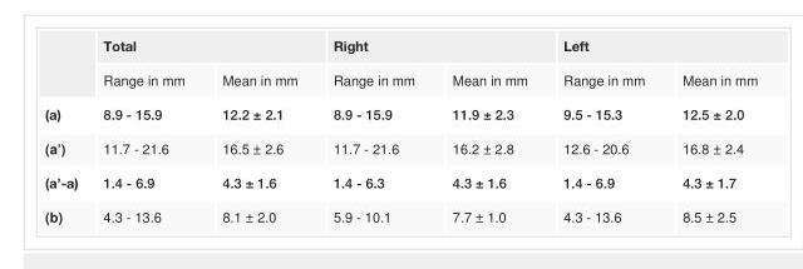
<table><thead><tr><td rowspan="2"></td><td colspan="2">Total</td><td colspan="2">Right</td><td colspan="2">Left</td></tr><tr><td>Range in mm</td><td>Mean in mm</td><td>Range in mm</td><td>Mean in mm</td><td>Range in mm</td><td>Mean in mm</td></tr></thead><tbody><tr><td>(a)</td><td>8.9 - 15.9</td><td>12.2 ± 2.1</td><td>8.9 - 15.9</td><td>11.9 ± 2.3</td><td>9.5 - 15.3</td><td>12.5 ± 2.0</td></tr><tr><td>(a’)</td><td>11.7 - 21.6</td><td>16.5 ± 2.6</td><td>11.7 - 21.6</td><td>16.2 ± 2.8</td><td>12.6 - 20.6</td><td>16.8 ± 2.4</td></tr><tr><td>(a’-a)</td><td>1.4 - 6.9</td><td>4.3 ± 1.6</td><td>1.4 - 6.3</td><td>4.3 ± 1.6</td><td>1.4 - 6.9</td><td>4.3 ± 1.7</td></tr><tr><td>(b)</td><td>4.3 - 13.6</td><td>8.1 ± 2.0</td><td>5.9 - 10.1</td><td>7.7 ± 1.0</td><td>4.3 - 13.6</td><td>8.5 ± 2.5</td></tr></tbody></table>